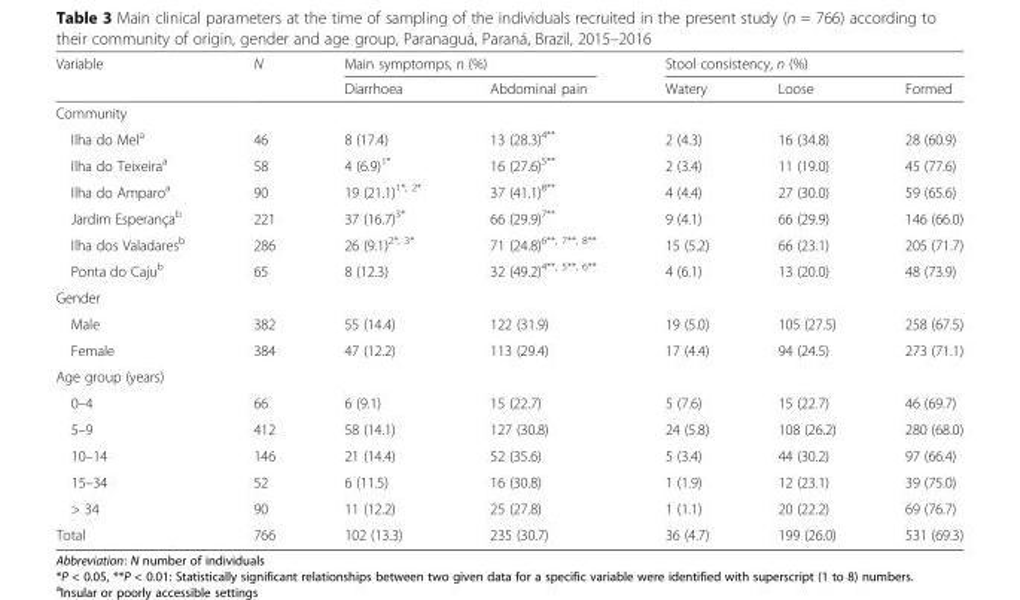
<table><thead><tr><td rowspan="2">Variable</td><td rowspan="2">N</td><td colspan="2">Main symptomps, n (%)</td><td colspan="3">Stool consistency, n (%)</td></tr><tr><td>Diarrhoea</td><td>Abdominal pain</td><td>Watery</td><td>Loose</td><td>Formed</td></tr></thead><tbody><tr><td colspan="7">Community</td></tr><tr><td>Ilha do Mel<sup>a</sup></td><td>46</td><td>8 (17.4)</td><td>13 (28.3)<sup>4**</sup></td><td>2 (4.3)</td><td>16 (34.8)</td><td>28 (60.9)</td></tr><tr><td>Ilha do Teixeira<sup>a</sup></td><td>58</td><td>4 (6.9)<sup>1*</sup></td><td>16 (27.6)<sup>5**</sup></td><td>2 (3.4)</td><td>11 (19.0)</td><td>45 (77.6)</td></tr><tr><td>Ilha do Amparo<sup>a</sup></td><td>90</td><td>19 (21.1)<sup>1*, 2*</sup></td><td>37 (41.1)<sup>8**</sup></td><td>4 (4.4)</td><td>27 (30.0)</td><td>59 (65.6)</td></tr><tr><td>Jardim Esperança<sup>b</sup></td><td>221</td><td>37 (16.7)<sup>3*</sup></td><td>66 (29.9)<sup>7**</sup></td><td>9 (4.1)</td><td>66 (29.9)</td><td>146 (66.0)</td></tr><tr><td>Ilha dos Valadares<sup>b</sup></td><td>286</td><td>26 (9.1)<sup>2*, 3*</sup></td><td>71 (24.8)<sup>6**, 7**, 8**</sup></td><td>15 (5.2)</td><td>66 (23.1)</td><td>205 (71.7)</td></tr><tr><td>Ponta do Caju<sup>b</sup></td><td>65</td><td>8 (12.3)</td><td>32 (49.2)<sup>4**, 5**, 6**</sup></td><td>4 (6.1)</td><td>13 (20.0)</td><td>48 (73.9)</td></tr><tr><td colspan="7">Gender</td></tr><tr><td>Male</td><td>382</td><td>55 (14.4)</td><td>122 (31.9)</td><td>19 (5.0)</td><td>105 (27.5)</td><td>258 (67.5)</td></tr><tr><td>Female</td><td>384</td><td>47 (12.2)</td><td>113 (29.4)</td><td>17 (4.4)</td><td>94 (24.5)</td><td>273 (71.1)</td></tr><tr><td colspan="7">Age group (years)</td></tr><tr><td>0–4</td><td>66</td><td>6 (9.1)</td><td>15 (22.7)</td><td>5 (7.6)</td><td>15 (22.7)</td><td>46 (69.7)</td></tr><tr><td>5–9</td><td>412</td><td>58 (14.1)</td><td>127 (30.8)</td><td>24 (5.8)</td><td>108 (26.2)</td><td>280 (68.0)</td></tr><tr><td>10–14</td><td>146</td><td>21 (14.4)</td><td>52 (35.6)</td><td>5 (3.4)</td><td>44 (30.2)</td><td>97 (66.4)</td></tr><tr><td>15–34</td><td>52</td><td>6 (11.5)</td><td>16 (30.8)</td><td>1 (1.9)</td><td>12 (23.1)</td><td>39 (75.0)</td></tr><tr><td>&gt; 34</td><td>90</td><td>11 (12.2)</td><td>25 (27.8)</td><td>1 (1.1)</td><td>20 (22.2)</td><td>69 (76.7)</td></tr><tr><td>Total</td><td>766</td><td>102 (13.3)</td><td>235 (30.7)</td><td>36 (4.7)</td><td>199 (26.0)</td><td>531 (69.3)</td></tr></tbody></table>